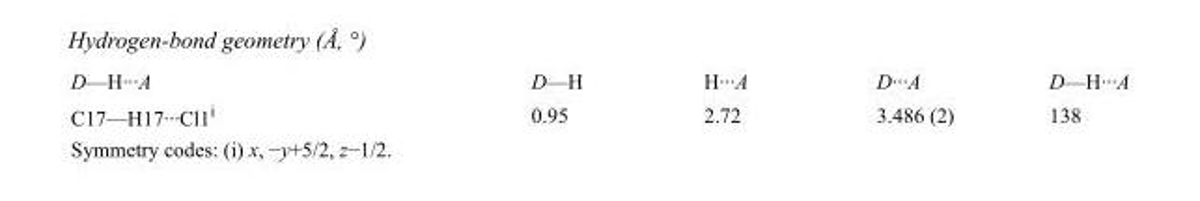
<table><tbody><tr><td>D—H···A</td><td>D—H</td><td>H···A</td><td>D···A</td><td>D—H···A</td></tr><tr><td>C17—H17···Cl1<sup>i</sup></td><td>0.95</td><td>2.72</td><td>3.486 (2)</td><td>138</td></tr></tbody></table>